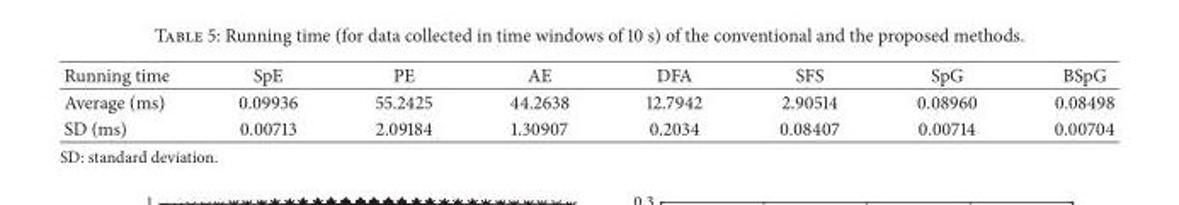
<table><thead><tr><td>Running time</td><td>SpE</td><td>PE</td><td>AE</td><td>DFA</td><td>SFS</td><td>SpG</td><td>BSpG</td></tr></thead><tbody><tr><td>Average (ms)</td><td>0.09936</td><td>55.2425</td><td>44.2638</td><td>12.7942</td><td>2.90514</td><td>0.08960</td><td>0.08498</td></tr><tr><td>SD (ms)</td><td>0.00713</td><td>2.09184</td><td>1.30907</td><td>0.2034</td><td>0.08407</td><td>0.00714</td><td>0.00704</td></tr></tbody></table>